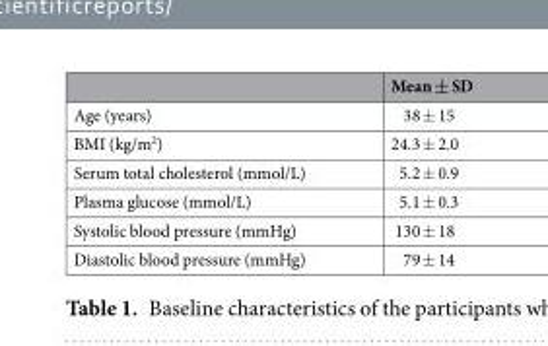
<table><thead><tr><td></td><td>Mean ± SD</td></tr></thead><tbody><tr><td>Age (years)</td><td>38 ± 15</td></tr><tr><td>BMI (kg/m<sup>2</sup>)</td><td>24.3 ± 2.0</td></tr><tr><td>Serum total cholesterol (mmol/L)</td><td>5.2 ± 0.9</td></tr><tr><td>Plasma glucose (mmol/L)</td><td>5.1 ± 0.3</td></tr><tr><td>Systolic blood pressure (mmHg)</td><td>130 ± 18</td></tr><tr><td>Diastolic blood pressure (mmHg)</td><td>79 ± 14</td></tr></tbody></table>